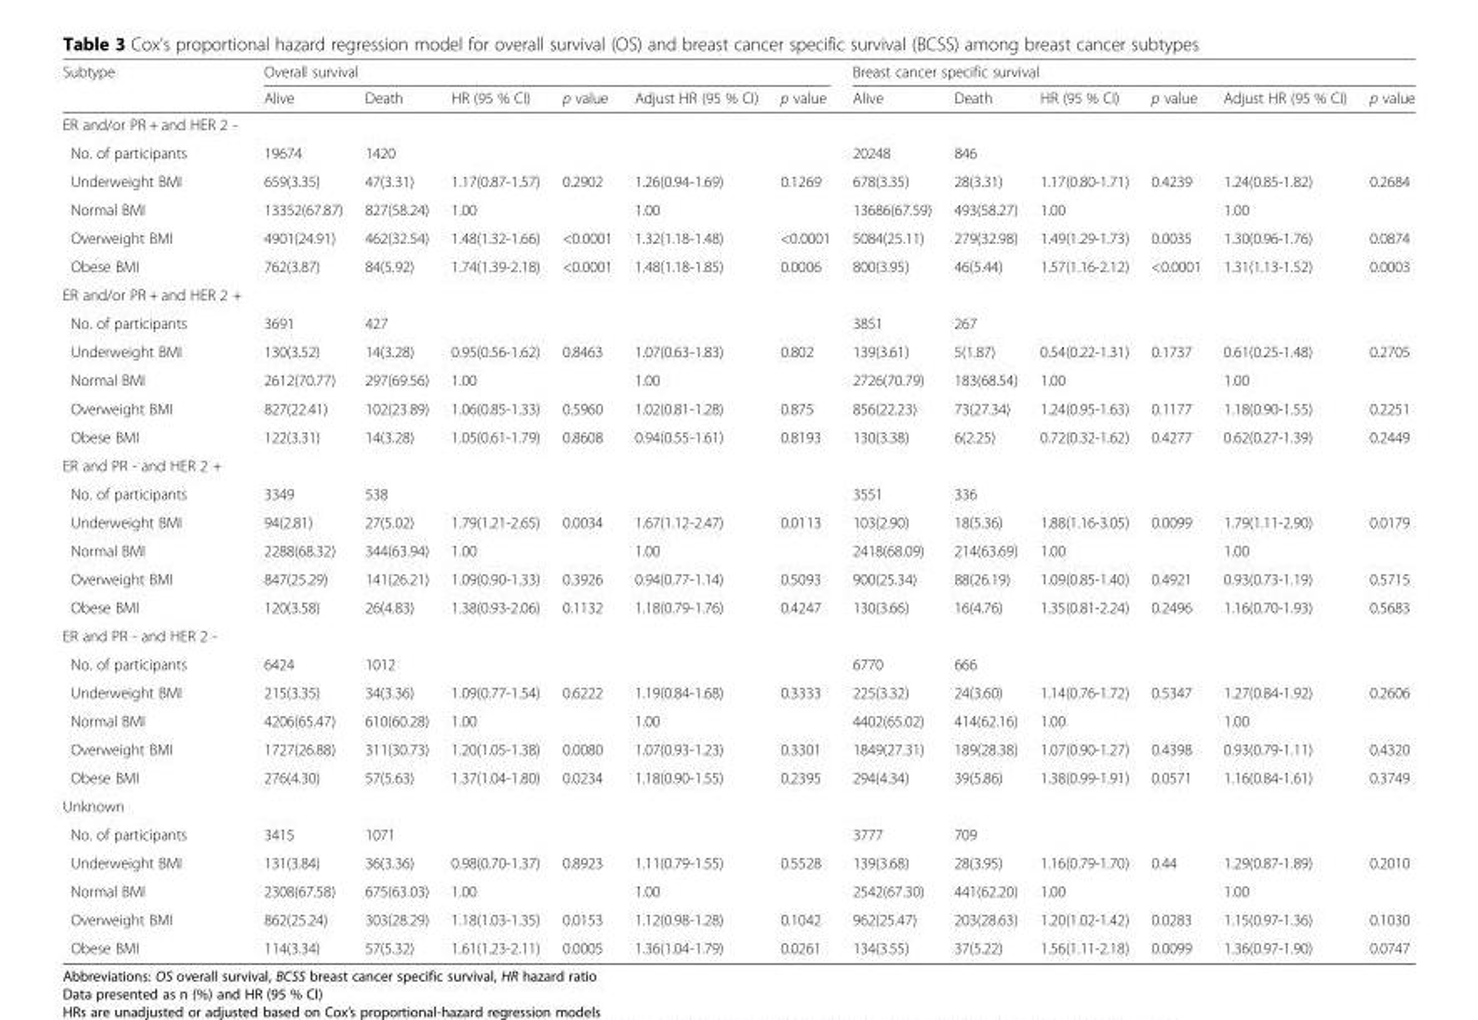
<table><thead><tr><td rowspan="2">Subtype</td><td colspan="6">Overall survival</td><td colspan="6">Breast cancer specific survival</td></tr><tr><td>Alive</td><td>Death</td><td>HR (95 % CI)</td><td>p value</td><td>Adjust HR (95 % CI)</td><td>p value</td><td>Alive</td><td>Death</td><td>HR (95 % CI)</td><td>p value</td><td>Adjust HR (95 % CI)</td><td>p value</td></tr></thead><tbody><tr><td colspan="13">ER and/or PR + and HER 2 -</td></tr><tr><td>No. of participants</td><td>19674</td><td>1420</td><td></td><td></td><td></td><td></td><td>20248</td><td>846</td><td></td><td></td><td></td><td></td></tr><tr><td>Underweight BMI</td><td>659(3.35)</td><td>47(3.31)</td><td>1.17(0.87-1.57)</td><td>0.2902</td><td>1.26(0.94-1.69)</td><td>0.1269</td><td>678(3.35)</td><td>28(3.31)</td><td>1.17(0.80-1.71)</td><td>0.4239</td><td>1.24(0.85-1.82)</td><td>0.2684</td></tr><tr><td>Normal BMI</td><td>13352(67.87)</td><td>827(58.24)</td><td>1.00</td><td></td><td>1.00</td><td></td><td>13686(67.59)</td><td>493(58.27)</td><td>1.00</td><td></td><td>1.00</td><td></td></tr><tr><td>Overweight BMI</td><td>4901(24.91)</td><td>462(32.54)</td><td>1.48(1.32-1.66)</td><td>&lt;0.0001</td><td>1.32(1.18-1.48)</td><td>&lt;0.0001</td><td>5084(25.11)</td><td>279(32.98)</td><td>1.49(1.29-1.73)</td><td>0.0035</td><td>1.30(0.96-1.76)</td><td>0.0874</td></tr><tr><td>Obese BMI</td><td>762(3.87)</td><td>84(5.92)</td><td>1.74(1.39-2.18)</td><td>&lt;0.0001</td><td>1.48(1.18-1.85)</td><td>0.0006</td><td>800(3.95)</td><td>46(5.44)</td><td>1.57(1.16-2.12)</td><td>&lt;0.0001</td><td>1.31(1.13-1.52)</td><td>0.0003</td></tr><tr><td colspan="13">ER and/or PR + and HER 2 +</td></tr><tr><td>No. of participants</td><td>3691</td><td>427</td><td></td><td></td><td></td><td></td><td>3851</td><td>267</td><td></td><td></td><td></td><td></td></tr><tr><td>Underweight BMI</td><td>130(3.52)</td><td>14(3.28)</td><td>0.95(0.56-1.62)</td><td>0.8463</td><td>1.07(0.63-1.83)</td><td>0.802</td><td>139(3.61)</td><td>5(1.87)</td><td>0.54(0.22-1.31)</td><td>0.1737</td><td>0.61(0.25-1.48)</td><td>0.2705</td></tr><tr><td>Normal BMI</td><td>2612(70.77)</td><td>297(69.56)</td><td>1.00</td><td></td><td>1.00</td><td></td><td>2726(70.79)</td><td>183(68.54)</td><td>1.00</td><td></td><td>1.00</td><td></td></tr><tr><td>Overweight BMI</td><td>827(22.41)</td><td>102(23.89)</td><td>1.06(0.85-1.33)</td><td>0.5960</td><td>1.02(0.81-1.28)</td><td>0.875</td><td>856(22.23)</td><td>73(27.34)</td><td>1.24(0.95-1.63)</td><td>0.1177</td><td>1.18(0.90-1.55)</td><td>0.2251</td></tr><tr><td>Obese BMI</td><td>122(3.31)</td><td>14(3.28)</td><td>1.05(0.61-1.79)</td><td>0.8608</td><td>0.94(0.55-1.61)</td><td>0.8193</td><td>130(3.38)</td><td>6(2.25)</td><td>0.72(0.32-1.62)</td><td>0.4277</td><td>0.62(0.27-1.39)</td><td>0.2449</td></tr><tr><td colspan="13">ER and PR - and HER 2 +</td></tr><tr><td>No. of participants</td><td>3349</td><td>538</td><td></td><td></td><td></td><td></td><td>3551</td><td>336</td><td></td><td></td><td></td><td></td></tr><tr><td>Underweight BMI</td><td>94(2.81)</td><td>27(5.02)</td><td>1.79(1.21-2.65)</td><td>0.0034</td><td>1.67(1.12-2.47)</td><td>0.0113</td><td>103(2.90)</td><td>18(5.36)</td><td>1.88(1.16-3.05)</td><td>0.0099</td><td>1.79(1.11-2.90)</td><td>0.0179</td></tr><tr><td>Normal BMI</td><td>2288(68.32)</td><td>344(63.94)</td><td>1.00</td><td></td><td>1.00</td><td></td><td>2418(68.09)</td><td>214(63.69)</td><td>1.00</td><td></td><td>1.00</td><td></td></tr><tr><td>Overweight BMI</td><td>847(25.29)</td><td>141(26.21)</td><td>1.09(0.90-1.33)</td><td>0.3926</td><td>0.94(0.77-1.14)</td><td>0.5093</td><td>900(25.34)</td><td>88(26.19)</td><td>1.09(0.85-1.40)</td><td>0.4921</td><td>0.93(0.73-1.19)</td><td>0.5715</td></tr><tr><td>Obese BMI</td><td>120(3.58)</td><td>26(4.83)</td><td>1.38(0.93-2.06)</td><td>0.1132</td><td>1.18(0.79-1.76)</td><td>0.4247</td><td>130(3.66)</td><td>16(4.76)</td><td>1.35(0.81-2.24)</td><td>0.2496</td><td>1.16(0.70-1.93)</td><td>0.5683</td></tr><tr><td colspan="13">ER and PR - and HER 2 -</td></tr><tr><td>No. of participants</td><td>6424</td><td>1012</td><td></td><td></td><td></td><td></td><td>6770</td><td>666</td><td></td><td></td><td></td><td></td></tr><tr><td>Underweight BMI</td><td>215(3.35)</td><td>34(3.36)</td><td>1.09(0.77-1.54)</td><td>0.6222</td><td>1.19(0.84-1.68)</td><td>0.3333</td><td>225(3.32)</td><td>24(3.60)</td><td>1.14(0.76-1.72)</td><td>0.5347</td><td>1.27(0.84-1.92)</td><td>0.2606</td></tr><tr><td>Normal BMI</td><td>4206(65.47)</td><td>610(60.28)</td><td>1.00</td><td></td><td>1.00</td><td></td><td>4402(65.02)</td><td>414(62.16)</td><td>1.00</td><td></td><td>1.00</td><td></td></tr><tr><td>Overweight BMI</td><td>1727(26.88)</td><td>311(30.73)</td><td>1.20(1.05-1.38)</td><td>0.0080</td><td>1.07(0.93-1.23)</td><td>0.3301</td><td>1849(27.31)</td><td>189(28.38)</td><td>1.07(0.90-1.27)</td><td>0.4398</td><td>0.93(0.79-1.11)</td><td>0.4320</td></tr><tr><td>Obese BMI</td><td>276(4.30)</td><td>57(5.63)</td><td>1.37(1.04-1.80)</td><td>0.0234</td><td>1.18(0.90-1.55)</td><td>0.2395</td><td>294(4.34)</td><td>39(5.86)</td><td>1.38(0.99-1.91)</td><td>0.0571</td><td>1.16(0.84-1.61)</td><td>0.3749</td></tr><tr><td colspan="13">Unknown</td></tr><tr><td>No. of participants</td><td>3415</td><td>1071</td><td></td><td></td><td></td><td></td><td>3777</td><td>709</td><td></td><td></td><td></td><td></td></tr><tr><td>Underweight BMI</td><td>131(3.84)</td><td>36(3.36)</td><td>0.98(0.70-1.37)</td><td>0.8923</td><td>1.11(0.79-1.55)</td><td>0.5528</td><td>139(3.68)</td><td>28(3.95)</td><td>1.16(0.79-1.70)</td><td>0.44</td><td>1.29(0.87-1.89)</td><td>0.2010</td></tr><tr><td>Normal BMI</td><td>2308(67.58)</td><td>675(63.03)</td><td>1.00</td><td></td><td>1.00</td><td></td><td>2542(67.30)</td><td>441(62.20)</td><td>1.00</td><td></td><td>1.00</td><td></td></tr><tr><td>Overweight BMI</td><td>862(25.24)</td><td>303(28.29)</td><td>1.18(1.03-1.35)</td><td>0.0153</td><td>1.12(0.98-1.28)</td><td>0.1042</td><td>962(25.47)</td><td>203(28.63)</td><td>1.20(1.02-1.42)</td><td>0.0283</td><td>1.15(0.97-1.36)</td><td>0.1030</td></tr><tr><td>Obese BMI</td><td>114(3.34)</td><td>57(5.32)</td><td>1.61(1.23-2.11)</td><td>0.0005</td><td>1.36(1.04-1.79)</td><td>0.0261</td><td>134(3.55)</td><td>37(5.22)</td><td>1.56(1.11-2.18)</td><td>0.0099</td><td>1.36(0.97-1.90)</td><td>0.0747</td></tr></tbody></table>